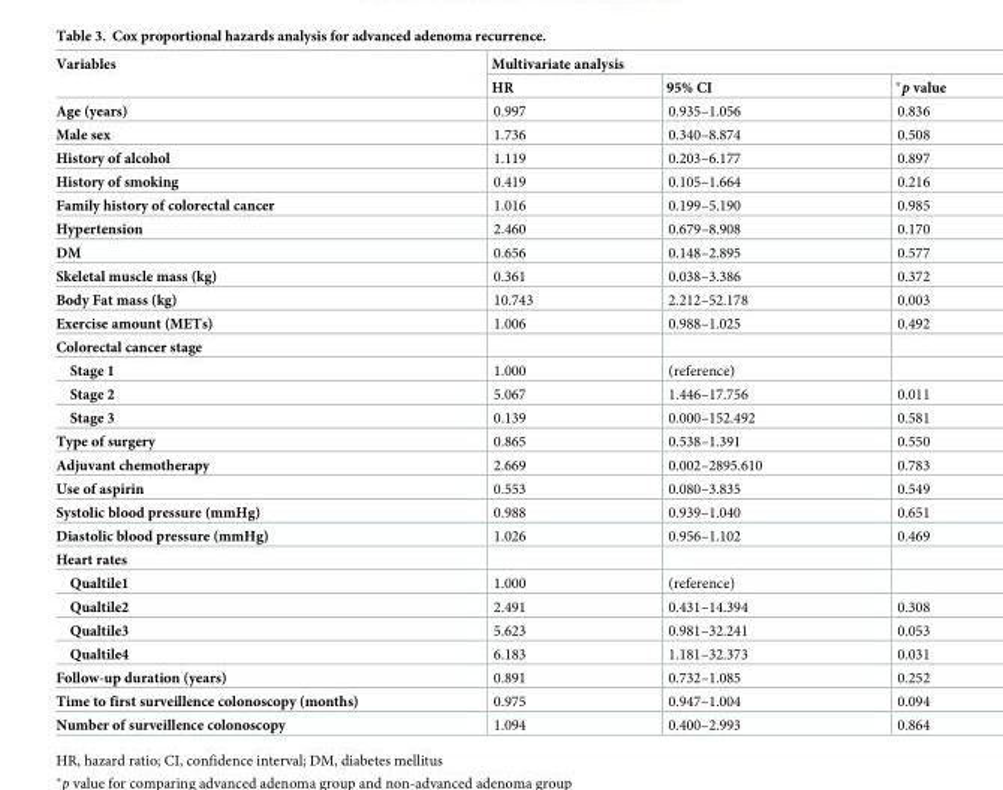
<table><thead><tr><td rowspan="2">Variables</td><td colspan="3">Multivariate analysis</td></tr><tr><td>HR</td><td>95% CI</td><td>*p value</td></tr></thead><tbody><tr><td>Age (years)</td><td>0.997</td><td>0.935–1.056</td><td>0.836</td></tr><tr><td>Male sex</td><td>1.736</td><td>0.340–8.874</td><td>0.508</td></tr><tr><td>History of alcohol</td><td>1.119</td><td>0.203–6.177</td><td>0.897</td></tr><tr><td>History of smoking</td><td>0.419</td><td>0.105–1.664</td><td>0.216</td></tr><tr><td>Family history of colorectal cancer</td><td>1.016</td><td>0.199–5.190</td><td>0.985</td></tr><tr><td>Hypertension</td><td>2.460</td><td>0.679–8.908</td><td>0.170</td></tr><tr><td>DM</td><td>0.656</td><td>0.148–2.895</td><td>0.577</td></tr><tr><td>Skeletal muscle mass (kg)</td><td>0.361</td><td>0.038–3.386</td><td>0.372</td></tr><tr><td>Body Fat mass (kg)</td><td>10.743</td><td>2.212–52.178</td><td>0.003</td></tr><tr><td>Exercise amount (METs)</td><td>1.006</td><td>0.988–1.025</td><td>0.492</td></tr><tr><td colspan="4">Colorectal cancer stage</td></tr><tr><td>Stage 1</td><td>1.000</td><td>(reference)</td><td></td></tr><tr><td>Stage 2</td><td>5.067</td><td>1.446–17.756</td><td>0.011</td></tr><tr><td>Stage 3</td><td>0.139</td><td>0.000–152.492</td><td>0.581</td></tr><tr><td>Type of surgery</td><td>0.865</td><td>0.538–1.391</td><td>0.550</td></tr><tr><td>Adjuvant chemotherapy</td><td>2.669</td><td>0.002–2895.610</td><td>0.783</td></tr><tr><td>Use of aspirin</td><td>0.553</td><td>0.080–3.835</td><td>0.549</td></tr><tr><td>Systolic blood pressure (mmHg)</td><td>0.988</td><td>0.939–1.040</td><td>0.651</td></tr><tr><td>Diastolic blood pressure (mmHg)</td><td>1.026</td><td>0.956–1.102</td><td>0.469</td></tr><tr><td colspan="4">Heart rates</td></tr><tr><td>Qualtile1</td><td>1.000</td><td>(reference)</td><td></td></tr><tr><td>Qualtile2</td><td>2.491</td><td>0.431–14.394</td><td>0.308</td></tr><tr><td>Qualtile3</td><td>5.623</td><td>0.981–32.241</td><td>0.053</td></tr><tr><td>Qualtile4</td><td>6.183</td><td>1.181–32.373</td><td>0.031</td></tr><tr><td>Follow-up duration (years)</td><td>0.891</td><td>0.732–1.085</td><td>0.252</td></tr><tr><td>Time to first surveillence colonoscopy (months)</td><td>0.975</td><td>0.947–1.004</td><td>0.094</td></tr><tr><td>Number of surveillence colonoscopy</td><td>1.094</td><td>0.400–2.993</td><td>0.864</td></tr></tbody></table>